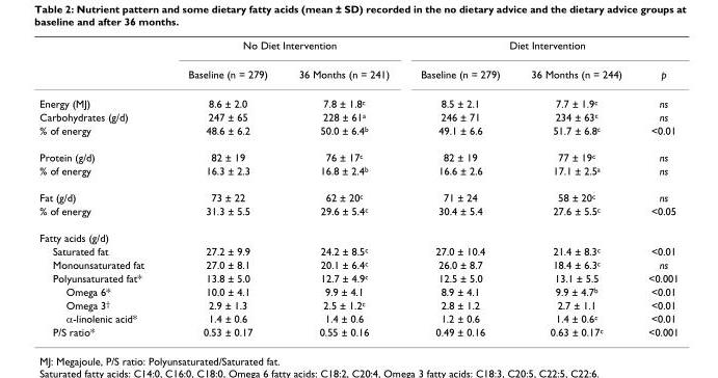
<table><thead><tr><td rowspan="2"></td><td colspan="2">No Diet Intervention</td><td colspan="3">Diet Intervention</td></tr><tr><td>Baseline (n = 279)</td><td>36 Months (n = 241)</td><td>Baseline (n = 279)</td><td>36 Months (n = 244)</td><td>p</td></tr></thead><tbody><tr><td>Energy (MJ)</td><td>8.6 ± 2.0</td><td>7.8 ± 1.8<sup>c</sup></td><td>8.5 ± 2.1</td><td>7.7 ± 1.9<sup>c</sup></td><td>ns</td></tr><tr><td>Carbohydrates (g/d)</td><td>247 ± 65</td><td>228 ± 61<sup>a</sup></td><td>246 ± 71</td><td>234 ± 63<sup>c</sup></td><td>ns</td></tr><tr><td>% of energy</td><td>48.6 ± 6.2</td><td>50.0 ± 6.4<sup>b</sup></td><td>49.1 ± 6.6</td><td>51.7 ± 6.8<sup>c</sup></td><td>&lt;0.01</td></tr><tr><td>Protein (g/d)</td><td>82 ± 19</td><td>76 ± 17<sup>c</sup></td><td>82 ± 19</td><td>77 ± 19<sup>c</sup></td><td>ns</td></tr><tr><td>% of energy</td><td>16.3 ± 2.3</td><td>16.8 ± 2.4<sup>b</sup></td><td>16.6 ± 2.6</td><td>17.1 ± 2.5<sup>a</sup></td><td>ns</td></tr><tr><td>Fat (g/d)</td><td>73 ± 22</td><td>62 ± 20<sup>c</sup></td><td>71 ± 24</td><td>58 ± 20<sup>c</sup></td><td>ns</td></tr><tr><td>% of energy</td><td>31.3 ± 5.5</td><td>29.6 ± 5.4<sup>c</sup></td><td>30.4 ± 5.4</td><td>27.6 ± 5.5<sup>c</sup></td><td>&lt;0.05</td></tr><tr><td colspan="6">Fatty acids (g/d)</td></tr><tr><td>Saturated fat</td><td>27.2 ± 9.9</td><td>24.2 ± 8.5<sup>c</sup></td><td>27.0 ± 10.4</td><td>21.4 ± 8.3<sup>c</sup></td><td>&lt;0.01</td></tr><tr><td>Monounsaturated fat</td><td>27.0 ± 8.1</td><td>20.1 ± 6.4<sup>c</sup></td><td>26.0 ± 8.7</td><td>18.4 ± 6.3<sup>c</sup></td><td>ns</td></tr><tr><td>Polyunsaturated fat*</td><td>13.8 ± 5.0</td><td>12.7 ± 4.9<sup>c</sup></td><td>12.5 ± 5.0</td><td>13.1 ± 5.5</td><td>&lt;0.001</td></tr><tr><td>Omega 6*</td><td>10.0 ± 4.1</td><td>9.9 ± 4.1</td><td>8.9 ± 4.1</td><td>9.9 ± 4.7<sup>b</sup></td><td>&lt;0.01</td></tr><tr><td>Omega 3<sup>†</sup></td><td>2.9 ± 1.3</td><td>2.5 ± 1.2<sup>c</sup></td><td>2.8 ± 1.2</td><td>2.7 ± 1.1</td><td>&lt;0.01</td></tr><tr><td>α-linolenic acid*</td><td>1.4 ± 0.6</td><td>1.4 ± 0.6</td><td>1.2 ± 0.6</td><td>1.4 ± 0.6<sup>c</sup></td><td>&lt;0.01</td></tr><tr><td>P/S ratio*</td><td>0.53 ± 0.17</td><td>0.55 ± 0.16</td><td>0.49 ± 0.16</td><td>0.63 ± 0.17<sup>c</sup></td><td>&lt;0.001</td></tr></tbody></table>